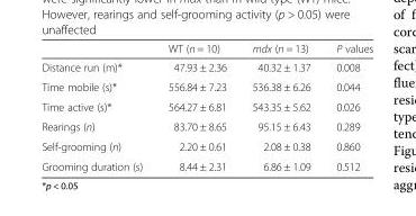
<table><thead><tr><td></td><td>WT (n = 10)</td><td>mdx (n = 13)</td><td>P values</td></tr></thead><tbody><tr><td>Distance run (m)*</td><td>47.93 ± 2.36</td><td>40.32 ± 1.37</td><td>0.008</td></tr><tr><td>Time mobile (s)*</td><td>556.84 ± 7.23</td><td>536.38 ± 6.26</td><td>0.044</td></tr><tr><td>Time active (s)*</td><td>564.27 ± 6.81</td><td>543.35 ± 5.62</td><td>0.026</td></tr><tr><td>Rearings (n)</td><td>83.70 ± 8.65</td><td>95.15 ± 6.43</td><td>0.289</td></tr><tr><td>Self-grooming (n)</td><td>2.20 ± 0.61</td><td>2.08 ± 0.38</td><td>0.860</td></tr><tr><td>Grooming duration (s)</td><td>8.44 ± 2.31</td><td>6.86 ± 1.09</td><td>0.512</td></tr></tbody></table>